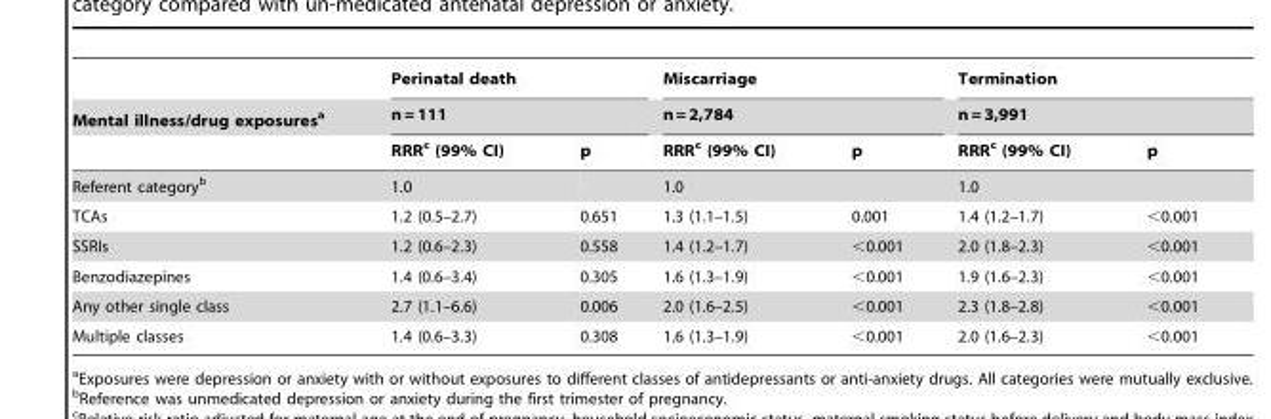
<table><thead><tr><td rowspan="3">Mental illness/drug exposures<sup>a</sup></td><td rowspan="2" colspan="2">Perinatal death n = 111</td><td rowspan="2" colspan="2">Miscarriage n = 2,784</td><td rowspan="2" colspan="2">Termination n = 3,991</td></tr><tr></tr><tr><td>RRR<sup>c</sup> (99% CI)</td><td>p</td><td>RRR<sup>c</sup> (99% CI)</td><td>p</td><td>RRR<sup>c</sup> (99% CI)</td><td>p</td></tr></thead><tbody><tr><td>Referent category<sup>b</sup></td><td>1.0</td><td></td><td>1.0</td><td></td><td>1.0</td><td></td></tr><tr><td>TCAs</td><td>1.2 (0.5–2.7)</td><td>0.651</td><td>1.3 (1.1–1.5)</td><td>0.001</td><td>1.4 (1.2–1.7)</td><td>&lt;0.001</td></tr><tr><td>SSRIs</td><td>1.2 (0.6–2.3)</td><td>0.558</td><td>1.4 (1.2–1.7)</td><td>&lt;0.001</td><td>2.0 (1.8–2.3)</td><td>&lt;0.001</td></tr><tr><td>Benzodiazepines</td><td>1.4 (0.6–3.4)</td><td>0.305</td><td>1.6 (1.3–1.9)</td><td>&lt;0.001</td><td>1.9 (1.6–2.3)</td><td>&lt;0.001</td></tr><tr><td>Any other single class</td><td>2.7 (1.1–6.6)</td><td>0.006</td><td>2.0 (1.6–2.5)</td><td>&lt;0.001</td><td>2.3 (1.8–2.8)</td><td>&lt;0.001</td></tr><tr><td>Multiple classes</td><td>1.4 (0.6–3.3)</td><td>0.308</td><td>1.6 (1.3–1.9)</td><td>&lt;0.001</td><td>2.0 (1.6–2.3)</td><td>&lt;0.001</td></tr></tbody></table>